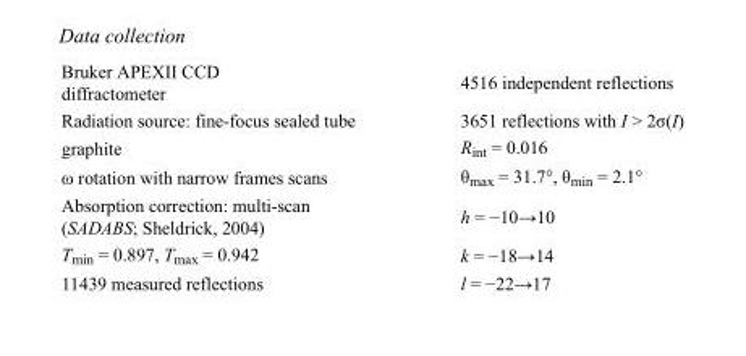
<table><tbody><tr><td>Bruker APEXII CCD diffractometer</td><td>4516 independent reflections</td></tr><tr><td>Radiation source: fine-focus sealed tube</td><td>3651 reflections with I &gt; 2σ(I)</td></tr><tr><td>graphite</td><td>R<sub>int</sub> = 0.016</td></tr><tr><td>ω rotation with narrow frames scans</td><td>θ<sub>max</sub> = 31.7°, θ<sub>min</sub> = 2.1°</td></tr><tr><td>Absorption correction: multi-scan (SADABS; Sheldrick, 2004)</td><td>h = −10→10</td></tr><tr><td>T<sub>min</sub> = 0.897, T<sub>max</sub> = 0.942</td><td>k = −18→14</td></tr><tr><td>11439 measured reflections</td><td>l = −22→17</td></tr></tbody></table>